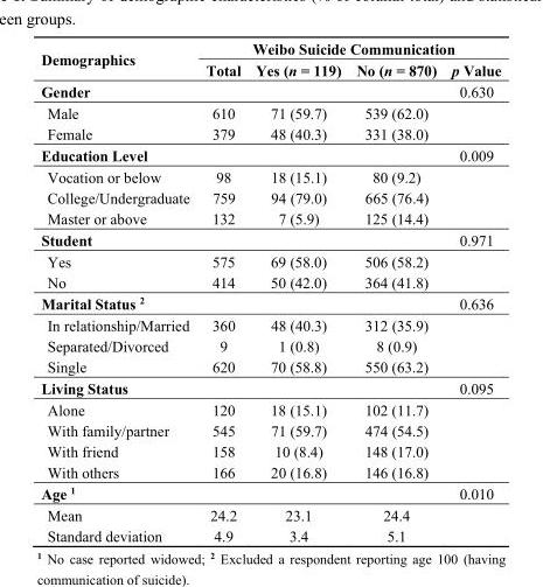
<table><thead><tr><td rowspan="2">Demographics</td><td colspan="4">Weibo Suicide Communication</td></tr><tr><td>Total</td><td>Yes (n = 119)</td><td>No (n = 870)</td><td>p Value</td></tr></thead><tbody><tr><td>Gender</td><td></td><td></td><td></td><td>0.630</td></tr><tr><td>Male</td><td>610</td><td>71 (59.7)</td><td>539 (62.0)</td><td></td></tr><tr><td>Female</td><td>379</td><td>48 (40.3)</td><td>331 (38.0)</td><td></td></tr><tr><td>Education Level</td><td></td><td></td><td></td><td>0.009</td></tr><tr><td>Vocation or below</td><td>98</td><td>18 (15.1)</td><td>80 (9.2)</td><td></td></tr><tr><td>College/Undergraduate</td><td>759</td><td>94 (79.0)</td><td>665 (76.4)</td><td></td></tr><tr><td>Master or above</td><td>132</td><td>7 (5.9)</td><td>125 (14.4)</td><td></td></tr><tr><td>Student</td><td></td><td></td><td></td><td>0.971</td></tr><tr><td>Yes</td><td>575</td><td>69 (58.0)</td><td>506 (58.2)</td><td></td></tr><tr><td>No</td><td>414</td><td>50 (42.0)</td><td>364 (41.8)</td><td></td></tr><tr><td>Marital Status <sup>2</sup></td><td></td><td></td><td></td><td>0.636</td></tr><tr><td>In relationship/Married</td><td>360</td><td>48 (40.3)</td><td>312 (35.9)</td><td></td></tr><tr><td>Separated/Divorced</td><td>9</td><td>1 (0.8)</td><td>8 (0.9)</td><td></td></tr><tr><td>Single</td><td>620</td><td>70 (58.8)</td><td>550 (63.2)</td><td></td></tr><tr><td>Living Status</td><td></td><td></td><td></td><td>0.095</td></tr><tr><td>Alone</td><td>120</td><td>18 (15.1)</td><td>102 (11.7)</td><td></td></tr><tr><td>With family/partner</td><td>545</td><td>71 (59.7)</td><td>474 (54.5)</td><td></td></tr><tr><td>With friend</td><td>158</td><td>10 (8.4)</td><td>148 (17.0)</td><td></td></tr><tr><td>With others</td><td>166</td><td>20 (16.8)</td><td>146 (16.8)</td><td></td></tr><tr><td>Age <sup>1</sup></td><td></td><td></td><td></td><td>0.010</td></tr><tr><td>Mean</td><td>24.2</td><td>23.1</td><td>24.4</td><td></td></tr><tr><td>Standard deviation</td><td>4.9</td><td>3.4</td><td>5.1</td><td></td></tr></tbody></table>